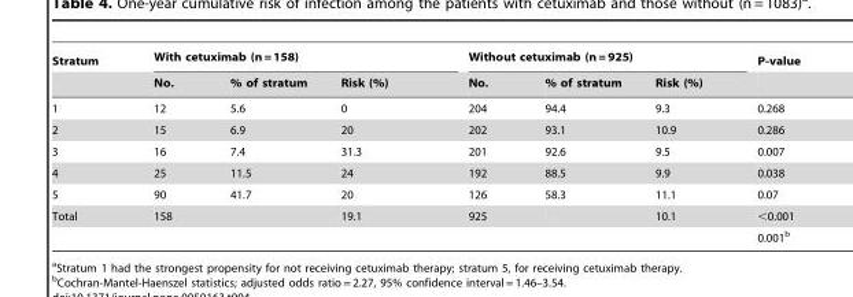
<table><thead><tr><td rowspan="2">Stratum</td><td colspan="3">With cetuximab (n = 158)</td><td colspan="3">Without cetuximab (n = 925)</td><td rowspan="2">P-value</td></tr><tr><td>No.</td><td>% of stratum</td><td>Risk (%)</td><td>No.</td><td>% of stratum</td><td>Risk (%)</td></tr></thead><tbody><tr><td>1</td><td>12</td><td>5.6</td><td>0</td><td>204</td><td>94.4</td><td>9.3</td><td>0.268</td></tr><tr><td>2</td><td>15</td><td>6.9</td><td>20</td><td>202</td><td>93.1</td><td>10.9</td><td>0.286</td></tr><tr><td>3</td><td>16</td><td>7.4</td><td>31.3</td><td>201</td><td>92.6</td><td>9.5</td><td>0.007</td></tr><tr><td>4</td><td>25</td><td>11.5</td><td>24</td><td>192</td><td>88.5</td><td>9.9</td><td>0.038</td></tr><tr><td>5</td><td>90</td><td>41.7</td><td>20</td><td>126</td><td>58.3</td><td>11.1</td><td>0.07</td></tr><tr><td rowspan="2">Total</td><td>158</td><td></td><td>19.1</td><td>925</td><td></td><td>10.1</td><td>&lt;0.001</td></tr><tr><td></td><td></td><td></td><td></td><td></td><td></td><td>0.001<sup>b</sup></td></tr></tbody></table>